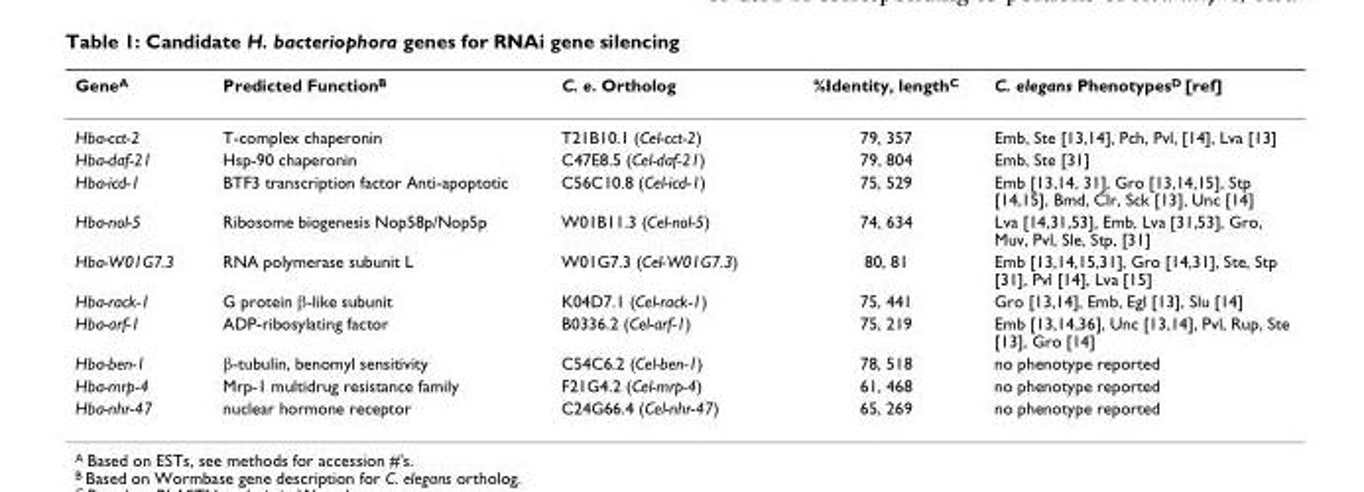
<table><thead><tr><td>Gene<sup>A</sup></td><td>Predicted Function<sup>B</sup></td><td>C. e. Ortholog</td><td>%Identity, length<sup>C</sup></td><td>C. elegans Phenotypes<sup>D</sup> [ref]</td></tr></thead><tbody><tr><td>Hba-cct-2</td><td>T-complex chaperonin</td><td>T21B10.1 (Cel-cct-2)</td><td>79, 357</td><td>Emb, Ste [13,14], Pch, Pvl, [14], Lva [13]</td></tr><tr><td>Hba-daf-21</td><td>Hsp-90 chaperonin</td><td>C47E8.5 (Cel-daf-21)</td><td>79, 804</td><td>Emb, Ste [31]</td></tr><tr><td>Hba-icd-1</td><td>BTF3 transcription factor Anti-apoptotic</td><td>C56C10.8 (Cel-icd-1)</td><td>75, 529</td><td>Emb [13,14, 31], Gro [13,14,15], Stp [14,15], Bmd, Clr, Sck [13], Unc [14]</td></tr><tr><td>Hba-nol-5</td><td>Ribosome biogenesis Nop58p/Nop5p</td><td>W01B11.3 (Cel-nol-5)</td><td>74, 634</td><td>Lva [14,31,53], Emb, Lva [31,53], Gro, Muv, Pvl, Sle, Stp, [31]</td></tr><tr><td>Hba-W01G7.3</td><td>RNA polymerase subunit L</td><td>W01G7.3 (Cel-W01G7.3)</td><td>80, 81</td><td>Emb [13,14,15,31], Gro [14,31], Ste, Stp [31], Pvl [14], Lva [15]</td></tr><tr><td>Hba-rack-1</td><td>G protein β-like subunit</td><td>K04D7.1 (Cel-rack-1)</td><td>75, 441</td><td>Gro [13,14], Emb, Egl [13], Slu [14]</td></tr><tr><td>Hba-arf-1</td><td>ADP-ribosylating factor</td><td>B0336.2 (Cel-arf-1)</td><td>75, 219</td><td>Emb [13,14,36], Unc [13,14], Pvl, Rup, Ste [13], Gro [14]</td></tr><tr><td>Hba-ben-1</td><td>β-tubulin, benomyl sensitivity</td><td>C54C6.2 (Cel-ben-1)</td><td>78, 518</td><td>no phenotype reported</td></tr><tr><td>Hba-mrp-4</td><td>Mrp-1 multidrug resistance family</td><td>F21G4.2 (Cel-mrp-4)</td><td>61, 468</td><td>no phenotype reported</td></tr><tr><td>Hba-nhr-47</td><td>nuclear hormone receptor</td><td>C24G66.4 (Cel-nhr-47)</td><td>65, 269</td><td>no phenotype reported</td></tr></tbody></table>